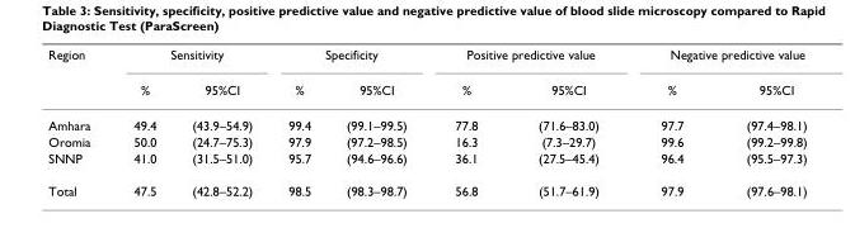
<table><thead><tr><td rowspan="2">Region</td><td colspan="2">Sensitivity</td><td colspan="2">Specificity</td><td colspan="2">Positive predictive value</td><td colspan="2">Negative predictive value</td></tr><tr><td>%</td><td>95%CI</td><td>%</td><td>95%CI</td><td>%</td><td>95%CI</td><td>%</td><td>95%CI</td></tr></thead><tbody><tr><td>Amhara</td><td>49.4</td><td>(43.9–54.9)</td><td>99.4</td><td>(99.1–99.5)</td><td>77.8</td><td>(71.6–83.0)</td><td>97.7</td><td>(97.4–98.1)</td></tr><tr><td>Oromia</td><td>50.0</td><td>(24.7–75.3)</td><td>97.9</td><td>(97.2–98.5)</td><td>16.3</td><td>(7.3–29.7)</td><td>99.6</td><td>(99.2–99.8)</td></tr><tr><td>SNNP</td><td>41.0</td><td>(31.5–51.0)</td><td>95.7</td><td>(94.6–96.6)</td><td>36.1</td><td>(27.5–45.4)</td><td>96.4</td><td>(95.5–97.3)</td></tr><tr><td>Total</td><td>47.5</td><td>(42.8–52.2)</td><td>98.5</td><td>(98.3–98.7)</td><td>56.8</td><td>(51.7–61.9)</td><td>97.9</td><td>(97.6–98.1)</td></tr></tbody></table>